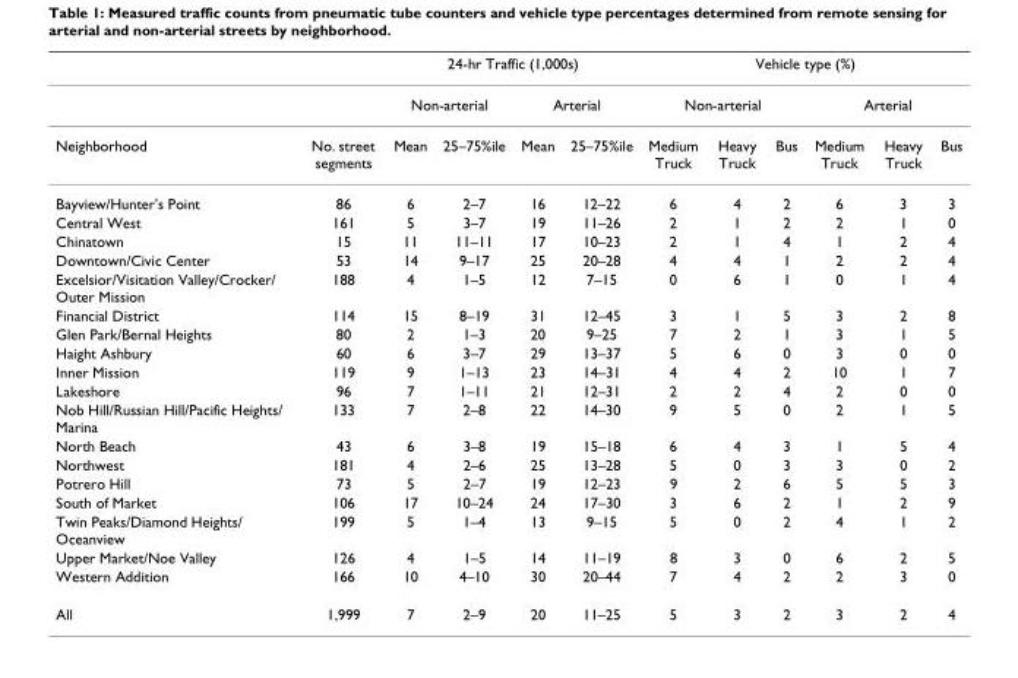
<table><thead><tr><td rowspan="3">Neighborhood</td><td rowspan="3">No. street segments</td><td colspan="4">24-hr Traffic (1,000s)</td><td colspan="6">Vehicle type (%)</td></tr><tr><td colspan="2">Non-arterial</td><td colspan="2">Arterial</td><td colspan="3">Non-arterial</td><td colspan="3">Arterial</td></tr><tr><td>Mean</td><td>25–75%ile</td><td>Mean</td><td>25–75%ile</td><td>Medium Truck</td><td>Heavy Truck</td><td>Bus</td><td>Medium Truck</td><td>Heavy Truck</td><td>Bus</td></tr></thead><tbody><tr><td>Bayview/Hunter&#x27;s Point</td><td>86</td><td>6</td><td>2–7</td><td>16</td><td>12–22</td><td>6</td><td>4</td><td>2</td><td>6</td><td>3</td><td>3</td></tr><tr><td>Central West</td><td>161</td><td>5</td><td>3–7</td><td>19</td><td>11–26</td><td>2</td><td>1</td><td>2</td><td>2</td><td>1</td><td>0</td></tr><tr><td>Chinatown</td><td>15</td><td>11</td><td>11–11</td><td>17</td><td>10–23</td><td>2</td><td>1</td><td>4</td><td>1</td><td>2</td><td>4</td></tr><tr><td>Downtown/Civic Center</td><td>53</td><td>14</td><td>9–17</td><td>25</td><td>20–28</td><td>4</td><td>4</td><td>1</td><td>2</td><td>2</td><td>4</td></tr><tr><td>Excelsior/Visitation Valley/Crocker/ Outer Mission</td><td>188</td><td>4</td><td>1–5</td><td>12</td><td>7–15</td><td>0</td><td>6</td><td>1</td><td>0</td><td>1</td><td>4</td></tr><tr><td>Financial District</td><td>114</td><td>15</td><td>8–19</td><td>31</td><td>12–45</td><td>3</td><td>1</td><td>5</td><td>3</td><td>2</td><td>8</td></tr><tr><td>Glen Park/Bernal Heights</td><td>80</td><td>2</td><td>1–3</td><td>20</td><td>9–25</td><td>7</td><td>2</td><td>1</td><td>3</td><td>1</td><td>5</td></tr><tr><td>Haight Ashbury</td><td>60</td><td>6</td><td>3–7</td><td>29</td><td>13–37</td><td>5</td><td>6</td><td>0</td><td>3</td><td>0</td><td>0</td></tr><tr><td>Inner Mission</td><td>119</td><td>9</td><td>1–13</td><td>23</td><td>14–31</td><td>4</td><td>4</td><td>2</td><td>10</td><td>1</td><td>7</td></tr><tr><td>Lakeshore</td><td>96</td><td>7</td><td>1–11</td><td>21</td><td>12–31</td><td>2</td><td>2</td><td>4</td><td>2</td><td>0</td><td>0</td></tr><tr><td>Nob Hill/Russian Hill/Pacific Heights/ Marina</td><td>133</td><td>7</td><td>2–8</td><td>22</td><td>14–30</td><td>9</td><td>5</td><td>0</td><td>2</td><td>1</td><td>5</td></tr><tr><td>North Beach</td><td>43</td><td>6</td><td>3–8</td><td>19</td><td>15–18</td><td>6</td><td>4</td><td>3</td><td>1</td><td>5</td><td>4</td></tr><tr><td>Northwest</td><td>181</td><td>4</td><td>2–6</td><td>25</td><td>13–28</td><td>5</td><td>0</td><td>3</td><td>3</td><td>0</td><td>2</td></tr><tr><td>Potrero Hill</td><td>73</td><td>5</td><td>2–7</td><td>19</td><td>12–23</td><td>9</td><td>2</td><td>6</td><td>5</td><td>5</td><td>3</td></tr><tr><td>South of Market</td><td>106</td><td>17</td><td>10–24</td><td>24</td><td>17–30</td><td>3</td><td>6</td><td>2</td><td>1</td><td>2</td><td>9</td></tr><tr><td>Twin Peaks/Diamond Heights/ Oceanview</td><td>199</td><td>5</td><td>1–4</td><td>13</td><td>9–15</td><td>5</td><td>0</td><td>2</td><td>4</td><td>1</td><td>2</td></tr><tr><td>Upper Market/Noe Valley</td><td>126</td><td>4</td><td>1–5</td><td>14</td><td>11–19</td><td>8</td><td>3</td><td>0</td><td>6</td><td>2</td><td>5</td></tr><tr><td>Western Addition</td><td>166</td><td>10</td><td>4–10</td><td>30</td><td>20–44</td><td>7</td><td>4</td><td>2</td><td>2</td><td>3</td><td>0</td></tr><tr><td>All</td><td>1,999</td><td>7</td><td>2–9</td><td>20</td><td>11–25</td><td>5</td><td>3</td><td>2</td><td>3</td><td>2</td><td>4</td></tr></tbody></table>